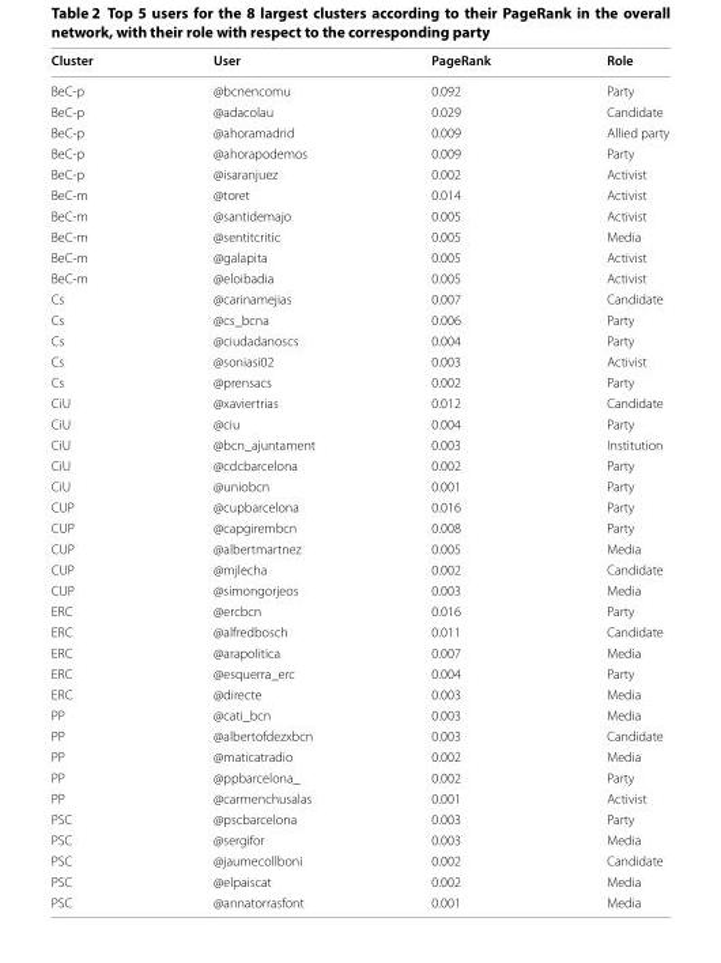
<table><thead><tr><td>Cluster</td><td>User</td><td>PageRank</td><td>Role</td></tr></thead><tbody><tr><td>BeC-p</td><td>@bcnencomu</td><td>0.092</td><td>Party</td></tr><tr><td>BeC-p</td><td>@adacolau</td><td>0.029</td><td>Candidate</td></tr><tr><td>BeC-p</td><td>@ahoramadrid</td><td>0.009</td><td>Allied party</td></tr><tr><td>BeC-p</td><td>@ahorapodemos</td><td>0.009</td><td>Party</td></tr><tr><td>BeC-p</td><td>@isaranjuez</td><td>0.002</td><td>Activist</td></tr><tr><td>BeC-m</td><td>@toret</td><td>0.014</td><td>Activist</td></tr><tr><td>BeC-m</td><td>@santidemajo</td><td>0.005</td><td>Activist</td></tr><tr><td>BeC-m</td><td>@sentitcritic</td><td>0.005</td><td>Media</td></tr><tr><td>BeC-m</td><td>@galapita</td><td>0.005</td><td>Activist</td></tr><tr><td>BeC-m</td><td>@eloibadia</td><td>0.005</td><td>Activist</td></tr><tr><td>Cs</td><td>@carinamejias</td><td>0.007</td><td>Candidate</td></tr><tr><td>Cs</td><td>@cs_bcna</td><td>0.006</td><td>Party</td></tr><tr><td>Cs</td><td>@ciudadanoscs</td><td>0.004</td><td>Party</td></tr><tr><td>Cs</td><td>@soniasi02</td><td>0.003</td><td>Activist</td></tr><tr><td>Cs</td><td>@prensacs</td><td>0.002</td><td>Party</td></tr><tr><td>CiU</td><td>@xaviertrias</td><td>0.012</td><td>Candidate</td></tr><tr><td>CiU</td><td>@ciu</td><td>0.004</td><td>Party</td></tr><tr><td>CiU</td><td>@bcn_ajuntament</td><td>0.003</td><td>Institution</td></tr><tr><td>CiU</td><td>@cdcbarcelona</td><td>0.002</td><td>Party</td></tr><tr><td>CiU</td><td>@uniobcn</td><td>0.001</td><td>Party</td></tr><tr><td>CUP</td><td>@cupbarcelona</td><td>0.016</td><td>Party</td></tr><tr><td>CUP</td><td>@capgirembcn</td><td>0.008</td><td>Party</td></tr><tr><td>CUP</td><td>@albertmartnez</td><td>0.005</td><td>Media</td></tr><tr><td>CUP</td><td>@mjlecha</td><td>0.002</td><td>Candidate</td></tr><tr><td>CUP</td><td>@simongorjeos</td><td>0.003</td><td>Media</td></tr><tr><td>ERC</td><td>@ercbcn</td><td>0.016</td><td>Party</td></tr><tr><td>ERC</td><td>@alfredbosch</td><td>0.011</td><td>Candidate</td></tr><tr><td>ERC</td><td>@arapolitica</td><td>0.007</td><td>Media</td></tr><tr><td>ERC</td><td>@esquerra_erc</td><td>0.004</td><td>Party</td></tr><tr><td>ERC</td><td>@directe</td><td>0.003</td><td>Media</td></tr><tr><td>PP</td><td>@cati_bcn</td><td>0.003</td><td>Media</td></tr><tr><td>PP</td><td>@albertofdezxbcn</td><td>0.003</td><td>Candidate</td></tr><tr><td>PP</td><td>@maticatradio</td><td>0.002</td><td>Media</td></tr><tr><td>PP</td><td>@ppbarcelona_</td><td>0.002</td><td>Party</td></tr><tr><td>PP</td><td>@carmenchusalas</td><td>0.001</td><td>Activist</td></tr><tr><td>PSC</td><td>@pscbarcelona</td><td>0.003</td><td>Party</td></tr><tr><td>PSC</td><td>@sergifor</td><td>0.003</td><td>Media</td></tr><tr><td>PSC</td><td>@jaumecollboni</td><td>0.002</td><td>Candidate</td></tr><tr><td>PSC</td><td>@elpaiscat</td><td>0.002</td><td>Media</td></tr><tr><td>PSC</td><td>@annatorrasfont</td><td>0.001</td><td>Media</td></tr></tbody></table>